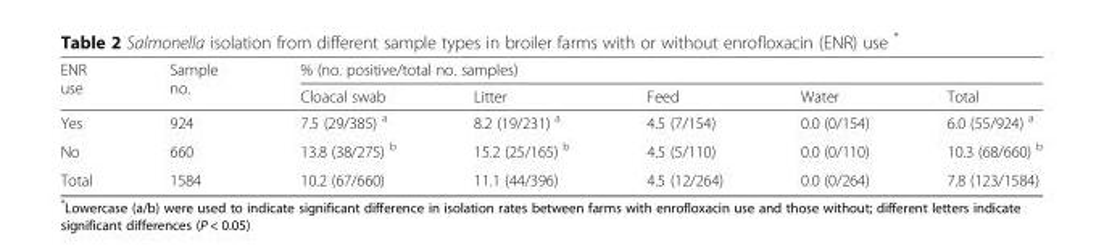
<table><thead><tr><td rowspan="2">ENR use</td><td rowspan="2">Sample no.</td><td colspan="5">% (no. positive/total no. samples)</td></tr><tr><td>Cloacal swab</td><td>Litter</td><td>Feed</td><td>Water</td><td>Total</td></tr></thead><tbody><tr><td>Yes</td><td>924</td><td>7.5 (29/385) <sup>a</sup></td><td>8.2 (19/231) <sup>a</sup></td><td>4.5 (7/154)</td><td>0.0 (0/154)</td><td>6.0 (55/924) <sup>a</sup></td></tr><tr><td>No</td><td>660</td><td>13.8 (38/275) <sup>b</sup></td><td>15.2 (25/165) <sup>b</sup></td><td>4.5 (5/110)</td><td>0.0 (0/110)</td><td>10.3 (68/660) <sup>b</sup></td></tr><tr><td>Total</td><td>1584</td><td>10.2 (67/660)</td><td>11.1 (44/396)</td><td>4.5 (12/264)</td><td>0.0 (0/264)</td><td>7.8 (123/1584)</td></tr></tbody></table>